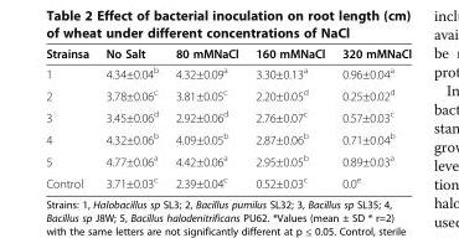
<table><thead><tr><td>Strainsa</td><td>No Salt</td><td>80 mMNaCl</td><td>160 mMNaCl</td><td>320 mMNaCl</td></tr></thead><tbody><tr><td>1</td><td>4.34±0.04<sup>b</sup></td><td>4.32±0.09<sup>a</sup></td><td>3.30±0.13<sup>a</sup></td><td>0.96±0.04<sup>a</sup></td></tr><tr><td>2</td><td>3.78±0.06<sup>c</sup></td><td>3.81±0.05<sup>c</sup></td><td>2.20±0.05<sup>d</sup></td><td>0.25±0.02<sup>d</sup></td></tr><tr><td>3</td><td>3.45±0.06<sup>d</sup></td><td>2.92±0.06<sup>d</sup></td><td>2.76±0.07<sup>c</sup></td><td>0.57±0.03<sup>c</sup></td></tr><tr><td>4</td><td>4.32±0.06<sup>b</sup></td><td>4.09±0.05<sup>b</sup></td><td>2.87±0.06<sup>b</sup></td><td>0.71±0.04<sup>b</sup></td></tr><tr><td>5</td><td>4.77±0.06<sup>a</sup></td><td>4.42±0.06<sup>a</sup></td><td>2.95±0.05<sup>b</sup></td><td>0.89±0.03<sup>a</sup></td></tr><tr><td>Control</td><td>3.71±0.03<sup>c</sup></td><td>2.39±0.04<sup>c</sup></td><td>0.52±0.03<sup>c</sup></td><td>0.0<sup>e</sup></td></tr></tbody></table>